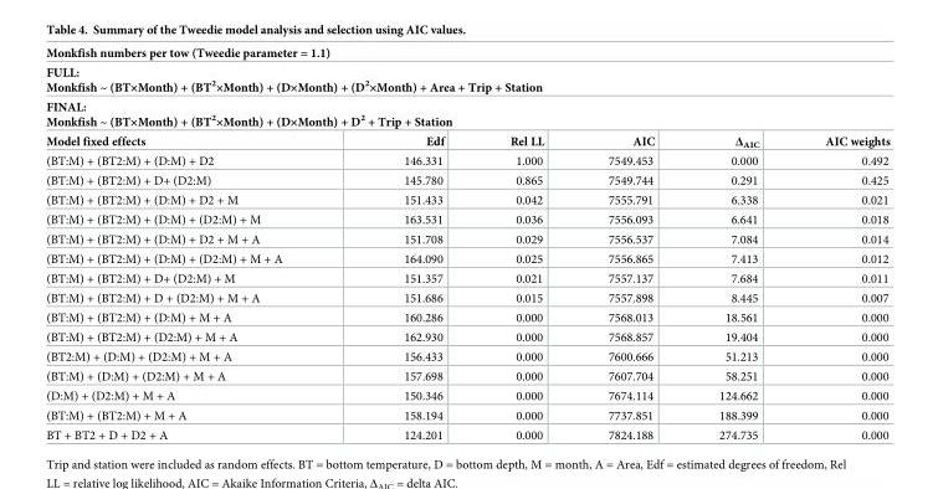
<table><thead><tr><td rowspan="3" colspan="6">Monkfish numbers per tow (Tweedie parameter = 1.1) FULL: Monkfish ~ (BT×Month) + (BT<sup>2</sup>×Month) + (D×Month) + (D<sup>2</sup>×Month) + Area + Trip + Station FINAL: Monkfish ~ (BT×Month) + (BT<sup>2</sup>×Month) + (D×Month) + D<sup>2</sup> + Trip + Station</td></tr><tr></tr><tr></tr><tr><td>Model fixed effects</td><td>Edf</td><td>Rel LL</td><td>AIC</td><td>Δ<sub>AIC</sub></td><td>AIC weights</td></tr></thead><tbody><tr><td>(BT:M) + (BT2:M) + (D:M) + D2</td><td>146.331</td><td>1.000</td><td>7549.453</td><td>0.000</td><td>0.492</td></tr><tr><td>(BT:M) + (BT2:M) + D+ (D2:M)</td><td>145.780</td><td>0.865</td><td>7549.744</td><td>0.291</td><td>0.425</td></tr><tr><td>(BT:M) + (BT2:M) + (D:M) + D2 + M</td><td>151.433</td><td>0.042</td><td>7555.791</td><td>6.338</td><td>0.021</td></tr><tr><td>(BT:M) + (BT2:M) + (D:M) + (D2:M) + M</td><td>163.531</td><td>0.036</td><td>7556.093</td><td>6.641</td><td>0.018</td></tr><tr><td>(BT:M) + (BT2:M) + (D:M) + D2 + M + A</td><td>151.708</td><td>0.029</td><td>7556.537</td><td>7.084</td><td>0.014</td></tr><tr><td>(BT:M) + (BT2:M) + (D:M) + (D2:M) + M + A</td><td>164.090</td><td>0.025</td><td>7556.865</td><td>7.413</td><td>0.012</td></tr><tr><td>(BT:M) + (BT2:M) + D+ (D2:M) + M</td><td>151.357</td><td>0.021</td><td>7557.137</td><td>7.684</td><td>0.011</td></tr><tr><td>(BT:M) + (BT2:M) + D + (D2:M) + M + A</td><td>151.686</td><td>0.015</td><td>7557.898</td><td>8.445</td><td>0.007</td></tr><tr><td>(BT:M) + (BT2:M) + (D:M) + M + A</td><td>160.286</td><td>0.000</td><td>7568.013</td><td>18.561</td><td>0.000</td></tr><tr><td>(BT:M) + (BT2:M) + (D2:M) + M + A</td><td>162.930</td><td>0.000</td><td>7568.857</td><td>19.404</td><td>0.000</td></tr><tr><td>(BT2:M) + (D:M) + (D2:M) + M + A</td><td>156.433</td><td>0.000</td><td>7600.666</td><td>51.213</td><td>0.000</td></tr><tr><td>(BT:M) + (D:M) + (D2:M) + M + A</td><td>157.698</td><td>0.000</td><td>7607.704</td><td>58.251</td><td>0.000</td></tr><tr><td>(D:M) + (D2:M) + M + A</td><td>150.346</td><td>0.000</td><td>7674.114</td><td>124.662</td><td>0.000</td></tr><tr><td>(BT:M) + (BT2:M) + M + A</td><td>158.194</td><td>0.000</td><td>7737.851</td><td>188.399</td><td>0.000</td></tr><tr><td>BT + BT2 + D + D2 + A</td><td>124.201</td><td>0.000</td><td>7824.188</td><td>274.735</td><td>0.000</td></tr></tbody></table>